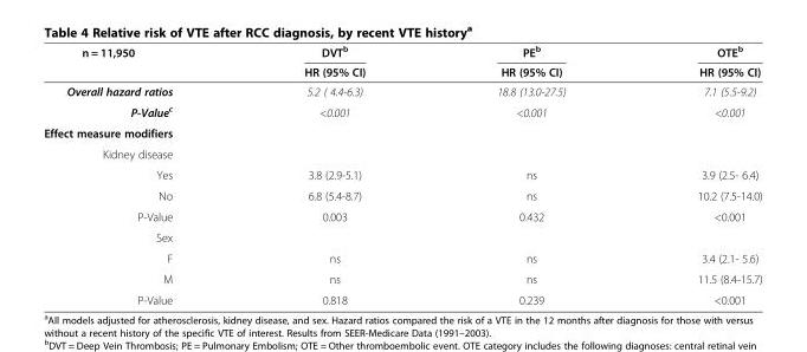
<table><thead><tr><td rowspan="2">n = 11,950</td><td rowspan="2">DVT<sup>b</sup> HR (95% CI)</td><td rowspan="2">PE<sup>b</sup> HR (95% CI)</td><td rowspan="2">OTE<sup>b</sup> HR (95% CI)</td></tr><tr></tr></thead><tbody><tr><td>Overall hazard ratios</td><td>5.2 ( 4.4-6.3)</td><td>18.8 (13.0-27.5)</td><td>7.1 (5.5-9.2)</td></tr><tr><td>P-Value<sup>c</sup></td><td>&lt;0.001</td><td>&lt;0.001</td><td>&lt;0.001</td></tr><tr><td colspan="4">Effect measure modifiers</td></tr><tr><td colspan="4">Kidney disease</td></tr><tr><td>Yes</td><td>3.8 (2.9-5.1)</td><td>ns</td><td>3.9 (2.5- 6.4)</td></tr><tr><td>No</td><td>6.8 (5.4-8.7)</td><td>ns</td><td>10.2 (7.5-14.0)</td></tr><tr><td>P-Value</td><td>0.003</td><td>0.432</td><td>&lt;0.001</td></tr><tr><td colspan="4">Sex</td></tr><tr><td>F</td><td>ns</td><td>ns</td><td>3.4 (2.1- 5.6)</td></tr><tr><td>M</td><td>ns</td><td>ns</td><td>11.5 (8.4-15.7)</td></tr><tr><td>P-Value</td><td>0.818</td><td>0.239</td><td>&lt;0.001</td></tr></tbody></table>